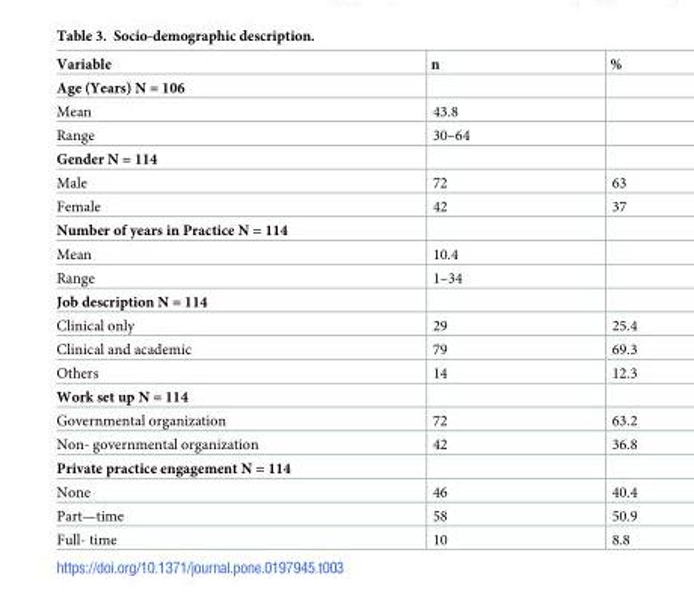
<table><thead><tr><td>Variable</td><td>n</td><td>%</td></tr></thead><tbody><tr><td colspan="3">Age (Years) N = 106</td></tr><tr><td>Mean</td><td>43.8</td><td></td></tr><tr><td>Range</td><td>30–64</td><td></td></tr><tr><td colspan="3">Gender N = 114</td></tr><tr><td>Male</td><td>72</td><td>63</td></tr><tr><td>Female</td><td>42</td><td>37</td></tr><tr><td colspan="3">Number of years in Practice N = 114</td></tr><tr><td>Mean</td><td>10.4</td><td></td></tr><tr><td>Range</td><td>1–34</td><td></td></tr><tr><td colspan="3">Job description N = 114</td></tr><tr><td>Clinical only</td><td>29</td><td>25.4</td></tr><tr><td>Clinical and academic</td><td>79</td><td>69.3</td></tr><tr><td>Others</td><td>14</td><td>12.3</td></tr><tr><td colspan="3">Work set up N = 114</td></tr><tr><td>Governmental organization</td><td>72</td><td>63.2</td></tr><tr><td>Non- governmental organization</td><td>42</td><td>36.8</td></tr><tr><td colspan="3">Private practice engagement N = 114</td></tr><tr><td>None</td><td>46</td><td>40.4</td></tr><tr><td>Part—time</td><td>58</td><td>50.9</td></tr><tr><td>Full- time</td><td>10</td><td>8.8</td></tr></tbody></table>